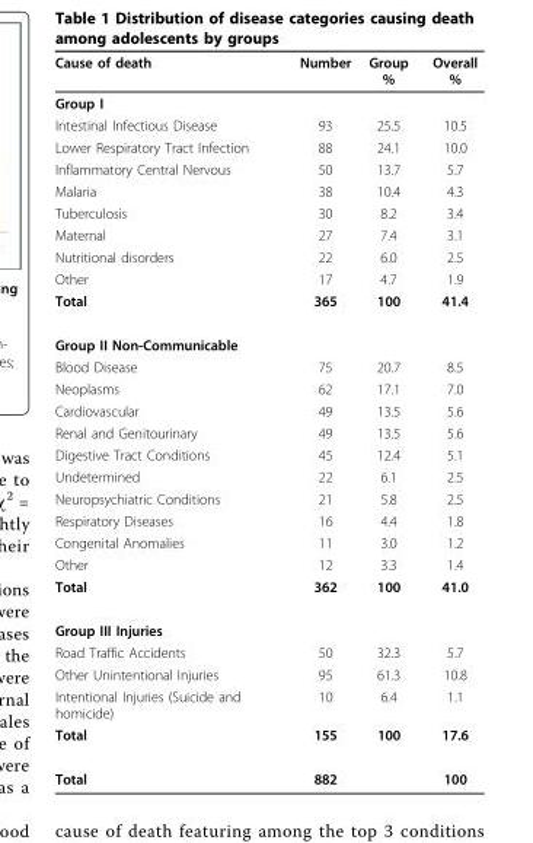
<table><thead><tr><td>Cause of death</td><td>Number</td><td>Group %</td><td>Overall %</td></tr></thead><tbody><tr><td colspan="4">Group I</td></tr><tr><td>Intestinal Infectious Disease</td><td>93</td><td>25.5</td><td>10.5</td></tr><tr><td>Lower Respiratory Tract Infection</td><td>88</td><td>24.1</td><td>10.0</td></tr><tr><td>Inflammatory Central Nervous</td><td>50</td><td>13.7</td><td>5.7</td></tr><tr><td>Malaria</td><td>38</td><td>10.4</td><td>4.3</td></tr><tr><td>Tuberculosis</td><td>30</td><td>8.2</td><td>3.4</td></tr><tr><td>Maternal</td><td>27</td><td>7.4</td><td>3.1</td></tr><tr><td>Nutritional disorders</td><td>22</td><td>6.0</td><td>2.5</td></tr><tr><td>Other</td><td>17</td><td>4.7</td><td>1.9</td></tr><tr><td>Total</td><td>365</td><td>100</td><td>41.4</td></tr><tr><td colspan="4">Group II Non-Communicable</td></tr><tr><td>Blood Disease</td><td>75</td><td>20.7</td><td>8.5</td></tr><tr><td>Neoplasms</td><td>62</td><td>17.1</td><td>7.0</td></tr><tr><td>Cardiovascular</td><td>49</td><td>13.5</td><td>5.6</td></tr><tr><td>Renal and Genitourinary</td><td>49</td><td>13.5</td><td>5.6</td></tr><tr><td>Digestive Tract Conditions</td><td>45</td><td>12.4</td><td>5.1</td></tr><tr><td>Undetermined</td><td>22</td><td>6.1</td><td>2.5</td></tr><tr><td>Neuropsychiatric Conditions</td><td>21</td><td>5.8</td><td>2.5</td></tr><tr><td>Respiratory Diseases</td><td>16</td><td>4.4</td><td>1.8</td></tr><tr><td>Congenital Anomalies</td><td>11</td><td>3.0</td><td>1.2</td></tr><tr><td>Other</td><td>12</td><td>3.3</td><td>1.4</td></tr><tr><td>Total</td><td>362</td><td>100</td><td>41.0</td></tr><tr><td colspan="4">Group III Injuries</td></tr><tr><td>Road Traffic Accidents</td><td>50</td><td>32.3</td><td>5.7</td></tr><tr><td>Other Unintentional Injuries</td><td>95</td><td>61.3</td><td>10.8</td></tr><tr><td>Intentional Injuries (Suicide and homicide)</td><td>10</td><td>6.4</td><td>1.1</td></tr><tr><td>Total</td><td>155</td><td>100</td><td>17.6</td></tr><tr><td>Total</td><td>882</td><td></td><td>100</td></tr></tbody></table>